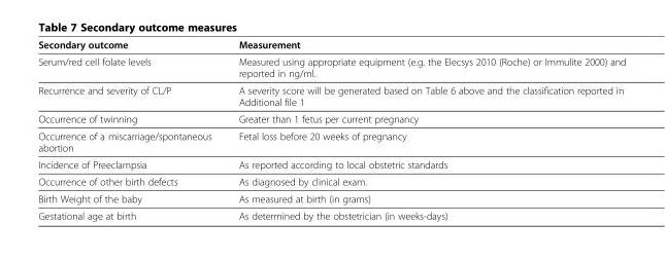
<table><thead><tr><td>Secondary outcome</td><td>Measurement</td></tr></thead><tbody><tr><td>Serum/red cell folate levels</td><td>Measured using appropriate equipment (e.g. the Elecsys 2010 (Roche) or Immulite 2000) and reported in ng/ml.</td></tr><tr><td>Recurrence and severity of CL/P</td><td>A severity score will be generated based on Table 6 above and the classification reported in Additional file 1</td></tr><tr><td>Occurrence of twinning</td><td>Greater than 1 fetus per current pregnancy</td></tr><tr><td>Occurrence of a miscarriage/spontaneous abortion</td><td>Fetal loss before 20 weeks of pregnancy</td></tr><tr><td>Incidence of Preeclampsia</td><td>As reported according to local obstetric standards</td></tr><tr><td>Occurrence of other birth defects</td><td>As diagnosed by clinical exam.</td></tr><tr><td>Birth Weight of the baby</td><td>As measured at birth (in grams)</td></tr><tr><td>Gestational age at birth</td><td>As determined by the obstetrician (in weeks-days)</td></tr></tbody></table>